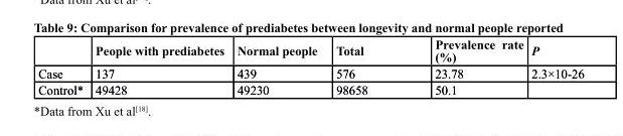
<table><thead><tr><td></td><td>People with prediabetes</td><td>Normal people</td><td>total</td><td>Prevalence rate (%)</td><td>P</td></tr></thead><tbody><tr><td>Case</td><td>137</td><td>439</td><td>576</td><td>23.78</td><td>2.3×10-26</td></tr><tr><td>Control*</td><td>49428</td><td>49230</td><td>98658</td><td>50.1</td><td></td></tr></tbody></table>